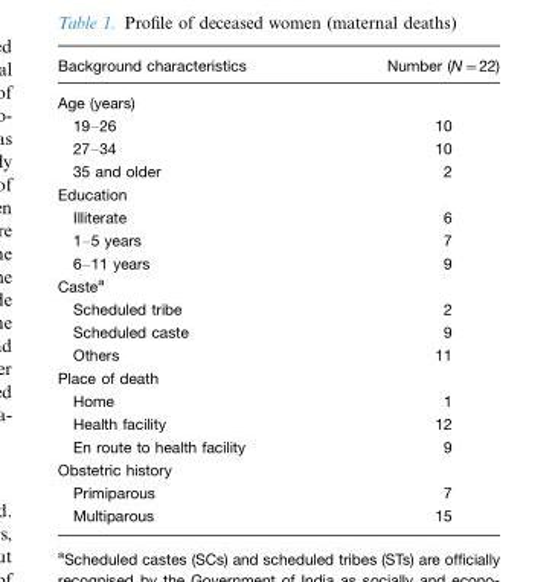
<table><thead><tr><td>Background characteristics</td><td>Number (N=22)</td></tr></thead><tbody><tr><td colspan="2">Age (years)</td></tr><tr><td>19–26</td><td>10</td></tr><tr><td>27–34</td><td>10</td></tr><tr><td>35 and older</td><td>2</td></tr><tr><td colspan="2">Education</td></tr><tr><td>Illiterate</td><td>6</td></tr><tr><td>1–5 years</td><td>7</td></tr><tr><td>6–11 years</td><td>9</td></tr><tr><td colspan="2">Caste<sup>a</sup></td></tr><tr><td>Scheduled tribe</td><td>2</td></tr><tr><td>Scheduled caste</td><td>9</td></tr><tr><td>Others</td><td>11</td></tr><tr><td colspan="2">Place of death</td></tr><tr><td>Home</td><td>1</td></tr><tr><td>Health facility</td><td>12</td></tr><tr><td>En route to health facility</td><td>9</td></tr><tr><td colspan="2">Obstetric history</td></tr><tr><td>Primiparous</td><td>7</td></tr><tr><td>Multiparous</td><td>15</td></tr></tbody></table>